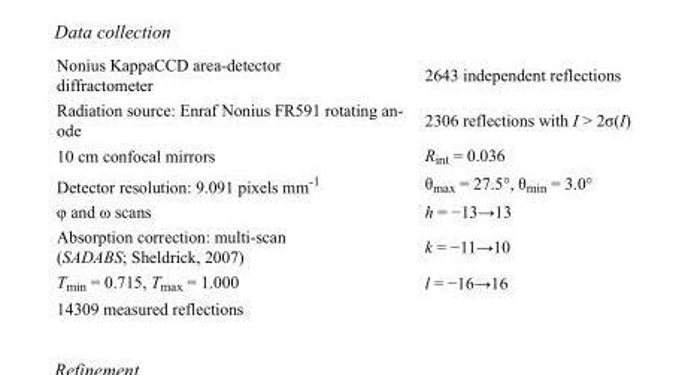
<table><tbody><tr><td>Nonius KappaCCD area-detector diffractometer</td><td>2643 independent reflections</td></tr><tr><td>Radiation source: Enraf Nonius FR591 rotating an- ode</td><td>2306 reflections with I &gt; 2σ(I)</td></tr><tr><td>10 cm confocal mirrors</td><td>R<sub>int</sub> = 0.036</td></tr><tr><td>Detector resolution: 9.091 pixels mm<sup>-1</sup></td><td>θ<sub>max</sub> = 27.5°, θ<sub>min</sub> = 3.0°</td></tr><tr><td>φ and ω scans</td><td>h = −13→13</td></tr><tr><td>Absorption correction: multi-scan (SADABS; Sheldrick, 2007)</td><td>k = −11→10</td></tr><tr><td>T<sub>min</sub> = 0.715, T<sub>max</sub> = 1.000</td><td>l = −16→16</td></tr><tr><td>14309 measured reflections</td><td></td></tr></tbody></table>